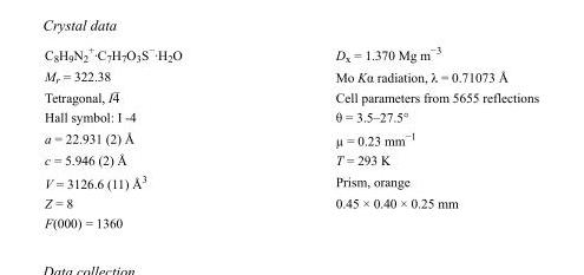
<table><tbody><tr><td>C<sub>8</sub>H<sub>9</sub>N<sub>2</sub> <sup>+</sup>·C<sub>7</sub>H<sub>7</sub>O<sub>3</sub>S<sup>−</sup>·H<sub>2</sub>O</td><td>D<sub>x</sub> = 1.370 Mg m<sup>−3</sup></td></tr><tr><td>M<sub>r</sub> = 322.38</td><td>Mo Kα radiation, λ = 0.71073 Å</td></tr><tr><td>Tetragonal, I4</td><td>Cell parameters from 5655 reflections</td></tr><tr><td>Hall symbol: I -4</td><td>θ = 3.5–27.5°</td></tr><tr><td>a = 22.931 (2) Å</td><td>µ = 0.23 mm<sup>−1</sup></td></tr><tr><td>c = 5.946 (2) Å</td><td>T = 293 K</td></tr><tr><td>V = 3126.6 (11) Å<sup>3</sup></td><td>Prism, orange</td></tr><tr><td>Z = 8</td><td>0.45 × 0.40 × 0.25 mm</td></tr><tr><td>F(000) = 1360</td><td></td></tr></tbody></table>